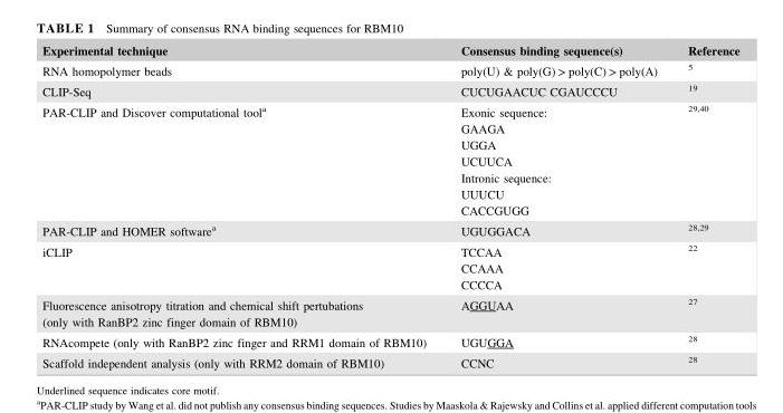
<table><thead><tr><td>Experimental technique</td><td>Consensus binding sequence(s)</td><td>Reference</td></tr></thead><tbody><tr><td>RNA homopolymer beads</td><td>poly(U) &amp; poly(G) &gt; poly(C) &gt; poly(A)</td><td>5</td></tr><tr><td>CLIP-Seq</td><td>CUCUGAACUC CGAUCCCU</td><td>19</td></tr><tr><td>PAR-CLIP and Discover computational tool<sup>a</sup></td><td>Exonic sequence: GAAGA UGGA UCUUCA Intronic sequence: UUUCU CACCGUGG</td><td>29,40</td></tr><tr><td>PAR-CLIP and HOMER software<sup>a</sup></td><td>UGUGGACA</td><td>28,29</td></tr><tr><td>iCLIP</td><td>TCCAA CCAAA CCCCA</td><td>22</td></tr><tr><td>Fluorescence anisotropy titration and chemical shift pertubations (only with RanBP2 zinc finger domain of RBM10)</td><td>AGGUAA</td><td>27</td></tr><tr><td>RNAcompete (only with RanBP2 zinc finger and RRM1 domain of RBM10)</td><td>UGUGGA</td><td>28</td></tr><tr><td>Scaffold independent analysis (only with RRM2 domain of RBM10)</td><td>CCNC</td><td>28</td></tr></tbody></table>